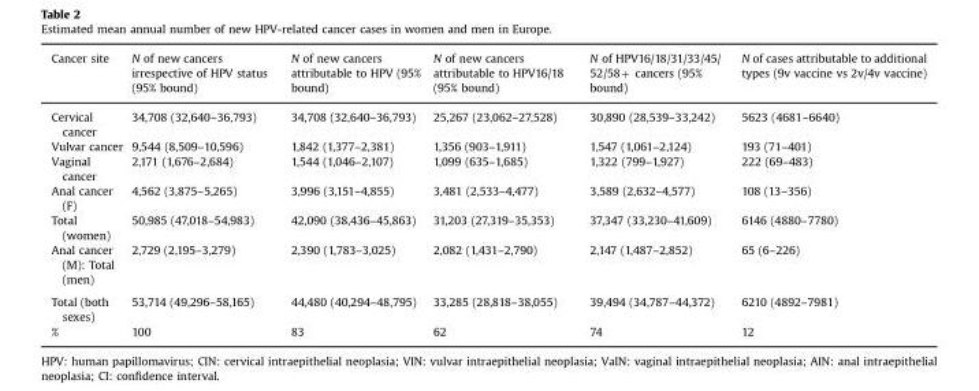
<table><thead><tr><td>Cancer site</td><td>N of new cancers irrespective of HPV status (95% bound)</td><td>N of new cancers attributable to HPV (95% bound)</td><td>N of new cancers attributable to HPV16/18 (95% bound)</td><td>N of HPV16/18/31/33/45/ 52/58+ cancers (95% bound)</td><td>N of cases attributable to additional types (9v vaccine vs 2v/4v vaccine)</td></tr></thead><tbody><tr><td>Cervical cancer</td><td>34,708 (32,640–36,793)</td><td>34,708 (32,640–36,793)</td><td>25,267 (23,062–27,528)</td><td>30,890 (28,539–33,242)</td><td>5623 (4681–6640)</td></tr><tr><td>Vulvar cancer</td><td>9,544 (8,509–10,596)</td><td>1,842 (1,377–2,381)</td><td>1,356 (903–1,911)</td><td>1,547 (1,061–2,124)</td><td>193 (71–401)</td></tr><tr><td>Vaginal cancer</td><td>2,171 (1,676–2,684)</td><td>1,544 (1,046–2,107)</td><td>1,099 (635–1,685)</td><td>1,322 (799–1,927)</td><td>222 (69–483)</td></tr><tr><td>Anal cancer (F)</td><td>4,562 (3,875–5,265)</td><td>3,996 (3,151–4,855)</td><td>3,481 (2,533–4,477)</td><td>3,589 (2,632–4,577)</td><td>108 (13–356)</td></tr><tr><td>Total (women)</td><td>50,985 (47,018–54,983)</td><td>42,090 (38,436–45,863)</td><td>31,203 (27,319–35,353)</td><td>37,347 (33,230–41,609)</td><td>6146 (4880–7780)</td></tr><tr><td>Anal cancer (M): Total (men)</td><td>2,729 (2,195–3,279)</td><td>2,390 (1,783–3,025)</td><td>2,082 (1,431–2,790)</td><td>2,147 (1,487–2,852)</td><td>65 (6–226)</td></tr><tr><td>Total (both sexes)</td><td>53,714 (49,296–58,165)</td><td>44,480 (40,294–48,795)</td><td>33,285 (28,818–38,055)</td><td>39,494 (34,787–44,372)</td><td>6210 (4892–7981)</td></tr><tr><td>%</td><td>100</td><td>83</td><td>62</td><td>74</td><td>12</td></tr></tbody></table>